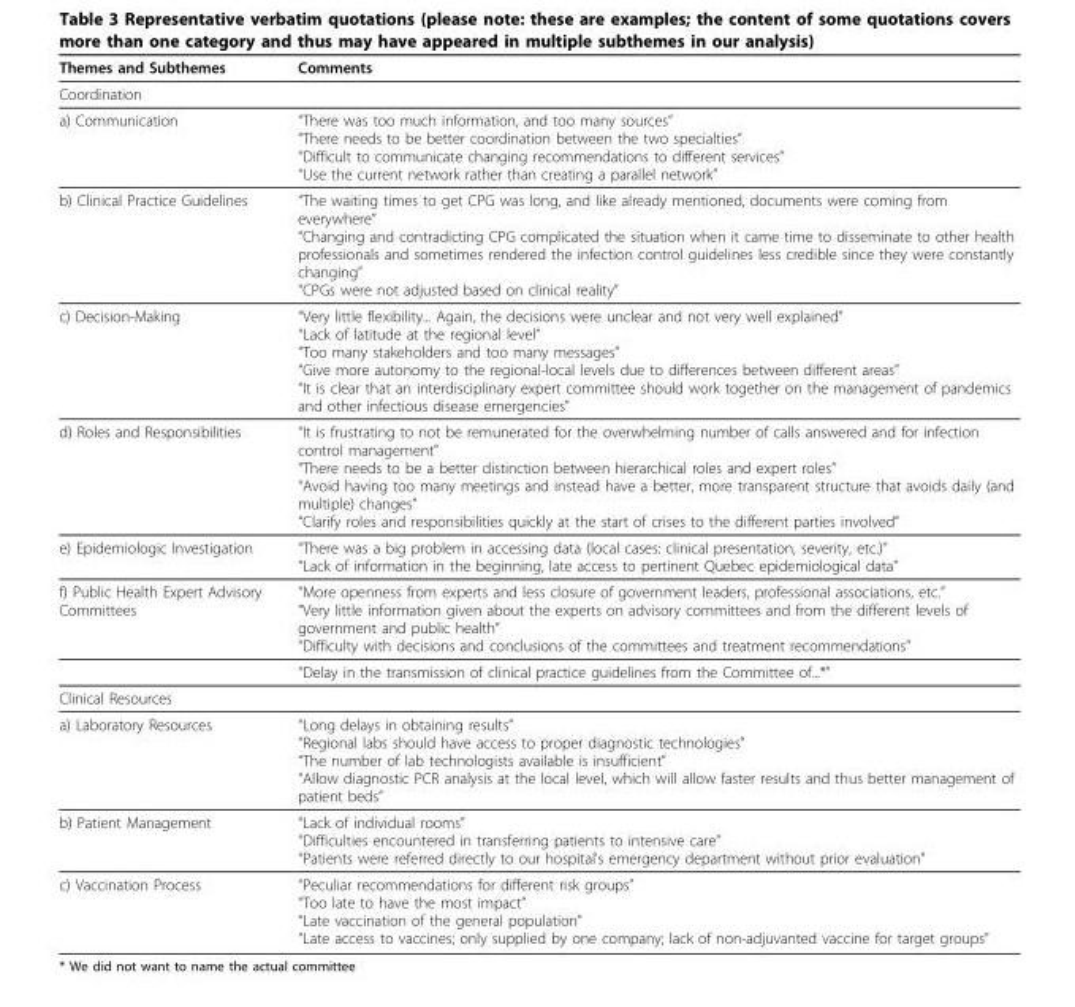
<table><thead><tr><td>Themes and Subthemes</td><td>Comments</td></tr></thead><tbody><tr><td colspan="2">Coordination</td></tr><tr><td>a) Communication</td><td>“There was too much information, and too many sources” “There needs to be better coordination between the two specialties” “Difficult to communicate changing recommendations to different services” “Use the current network rather than creating a parallel network”</td></tr><tr><td>b) Clinical Practice Guidelines</td><td>“The waiting times to get CPG was long, and like already mentioned, documents were coming from everywhere” “Changing and contradicting CPG complicated the situation when it came time to disseminate to other health professionals and sometimes rendered the infection control guidelines less credible since they were constantly changing” “CPGs were not adjusted based on clinical reality”</td></tr><tr><td>c) Decision-Making</td><td>“Very little flexibility... Again, the decisions were unclear and not very well explained” “Lack of latitude at the regional level” “Too many stakeholders and too many messages” “Give more autonomy to the regional-local levels due to differences between different areas” “It is clear that an interdisciplinary expert committee should work together on the management of pandemics and other infectious disease emergencies”</td></tr><tr><td>d) Roles and Responsibilities</td><td>“It is frustrating to not be remunerated for the overwhelming number of calls answered and for infection control management” “There needs to be a better distinction between hierarchical roles and expert roles” “Avoid having too many meetings and instead have a better, more transparent structure that avoids daily (and multiple) changes” “Clarify roles and responsibilities quickly at the start of crises to the different parties involved”</td></tr><tr><td>e) Epidemiologic Investigation</td><td>“There was a big problem in accessing data (local cases: clinical presentation, severity, etc.)” “Lack of information in the beginning, late access to pertinent Quebec epidemiological data”</td></tr><tr><td rowspan="2">f) Public Health Expert Advisory Committees</td><td>“More openness from experts and less closure of government leaders, professional associations, etc.” “Very little information given about the experts on advisory committees and from the different levels of government and public health” “Difficulty with decisions and conclusions of the committees and treatment recommendations”</td></tr><tr><td>“Delay in the transmission of clinical practice guidelines from the Committee of...*”</td></tr><tr><td colspan="2">Clinical Resources</td></tr><tr><td>a) Laboratory Resources</td><td>“Long delays in obtaining results” “Regional labs should have access to proper diagnostic technologies” “The number of lab technologists available is insufficient” “Allow diagnostic PCR analysis at the local level, which will allow faster results and thus better management of patient beds”</td></tr><tr><td>b) Patient Management</td><td>“Lack of individual rooms” “Difficulties encountered in transferring patients to intensive care” “Patients were referred directly to our hospital’s emergency department without prior evaluation”</td></tr><tr><td>c) Vaccination Process</td><td>“Peculiar recommendations for different risk groups” “Too late to have the most impact” “Late vaccination of the general population” “Late access to vaccines; only supplied by one company; lack of non-adjuvanted vaccine for target groups”</td></tr></tbody></table>